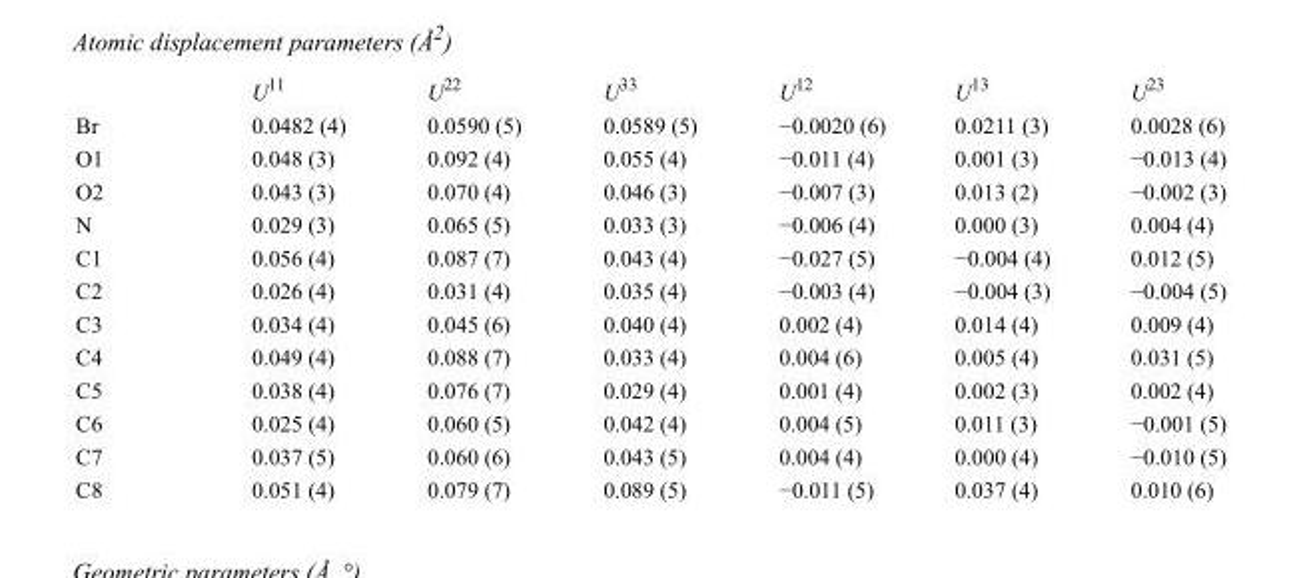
<table><thead><tr><td></td><td>U<sup>11</sup></td><td>U<sup>22</sup></td><td>U<sup>33</sup></td><td>U<sup>12</sup></td><td>U<sup>13</sup></td><td>U<sup>23</sup></td></tr></thead><tbody><tr><td>Br</td><td>0.0482 (4)</td><td>0.0590 (5)</td><td>0.0589 (5)</td><td>−0.0020 (6)</td><td>0.0211 (3)</td><td>0.0028 (6)</td></tr><tr><td>O1</td><td>0.048 (3)</td><td>0.092 (4)</td><td>0.055 (4)</td><td>−0.011 (4)</td><td>0.001 (3)</td><td>−0.013 (4)</td></tr><tr><td>O2</td><td>0.043 (3)</td><td>0.070 (4)</td><td>0.046 (3)</td><td>−0.007 (3)</td><td>0.013 (2)</td><td>−0.002 (3)</td></tr><tr><td>N</td><td>0.029 (3)</td><td>0.065 (5)</td><td>0.033 (3)</td><td>−0.006 (4)</td><td>0.000 (3)</td><td>0.004 (4)</td></tr><tr><td>C1</td><td>0.056 (4)</td><td>0.087 (7)</td><td>0.043 (4)</td><td>−0.027 (5)</td><td>−0.004 (4)</td><td>0.012 (5)</td></tr><tr><td>C2</td><td>0.026 (4)</td><td>0.031 (4)</td><td>0.035 (4)</td><td>−0.003 (4)</td><td>−0.004 (3)</td><td>−0.004 (5)</td></tr><tr><td>C3</td><td>0.034 (4)</td><td>0.045 (6)</td><td>0.040 (4)</td><td>0.002 (4)</td><td>0.014 (4)</td><td>0.009 (4)</td></tr><tr><td>C4</td><td>0.049 (4)</td><td>0.088 (7)</td><td>0.033 (4)</td><td>0.004 (6)</td><td>0.005 (4)</td><td>0.031 (5)</td></tr><tr><td>C5</td><td>0.038 (4)</td><td>0.076 (7)</td><td>0.029 (4)</td><td>0.001 (4)</td><td>0.002 (3)</td><td>0.002 (4)</td></tr><tr><td>C6</td><td>0.025 (4)</td><td>0.060 (5)</td><td>0.042 (4)</td><td>0.004 (5)</td><td>0.011 (3)</td><td>−0.001 (5)</td></tr><tr><td>C7</td><td>0.037 (5)</td><td>0.060 (6)</td><td>0.043 (5)</td><td>0.004 (4)</td><td>0.000 (4)</td><td>−0.010 (5)</td></tr><tr><td>C8</td><td>0.051 (4)</td><td>0.079 (7)</td><td>0.089 (5)</td><td>−0.011 (5)</td><td>0.037 (4)</td><td>0.010 (6)</td></tr></tbody></table>